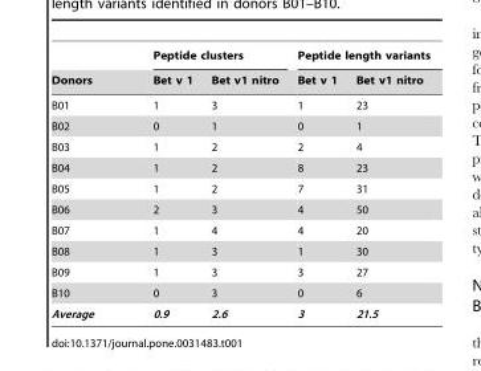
<table><thead><tr><td rowspan="2">Donors</td><td colspan="2">Peptide clusters</td><td colspan="2">Peptide length variants</td></tr><tr><td>Bet v 1</td><td>Bet v1 nitro</td><td>Bet v 1</td><td>Bet v1 nitro</td></tr></thead><tbody><tr><td>B01</td><td>1</td><td>3</td><td>1</td><td>23</td></tr><tr><td>B02</td><td>0</td><td>1</td><td>0</td><td>1</td></tr><tr><td>B03</td><td>1</td><td>2</td><td>2</td><td>4</td></tr><tr><td>B04</td><td>1</td><td>2</td><td>8</td><td>23</td></tr><tr><td>B05</td><td>1</td><td>2</td><td>7</td><td>31</td></tr><tr><td>B06</td><td>2</td><td>3</td><td>4</td><td>50</td></tr><tr><td>B07</td><td>1</td><td>4</td><td>4</td><td>20</td></tr><tr><td>B08</td><td>1</td><td>3</td><td>1</td><td>30</td></tr><tr><td>B09</td><td>1</td><td>3</td><td>3</td><td>27</td></tr><tr><td>B10</td><td>0</td><td>3</td><td>0</td><td>6</td></tr><tr><td>Average</td><td>0.9</td><td>2.6</td><td>3</td><td>21.5</td></tr></tbody></table>